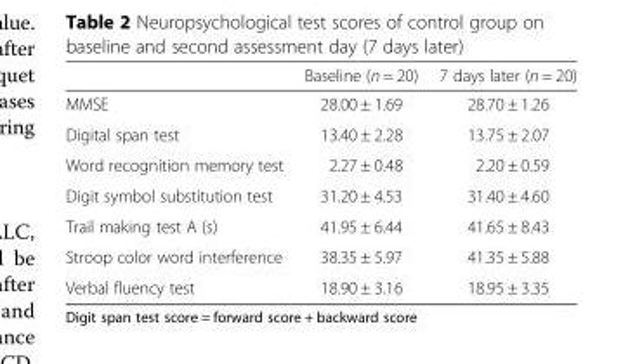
<table><thead><tr><td></td><td>Baseline (n = 20)</td><td>7 days later (n = 20)</td></tr></thead><tbody><tr><td>MMSE</td><td>28.00 ± 1.69</td><td>28.70 ± 1.26</td></tr><tr><td>Digital span test</td><td>13.40 ± 2.28</td><td>13.75 ± 2.07</td></tr><tr><td>Word recognition memory test</td><td>2.27 ± 0.48</td><td>2.20 ± 0.59</td></tr><tr><td>Digit symbol substitution test</td><td>31.20 ± 4.53</td><td>31.40 ± 4.60</td></tr><tr><td>Trail making test A (s)</td><td>41.95 ± 6.44</td><td>41.65 ± 8.43</td></tr><tr><td>Stroop color word interference</td><td>38.35 ± 5.97</td><td>41.35 ± 5.88</td></tr><tr><td>Verbal fluency test</td><td>18.90 ± 3.16</td><td>18.95 ± 3.35</td></tr></tbody></table>